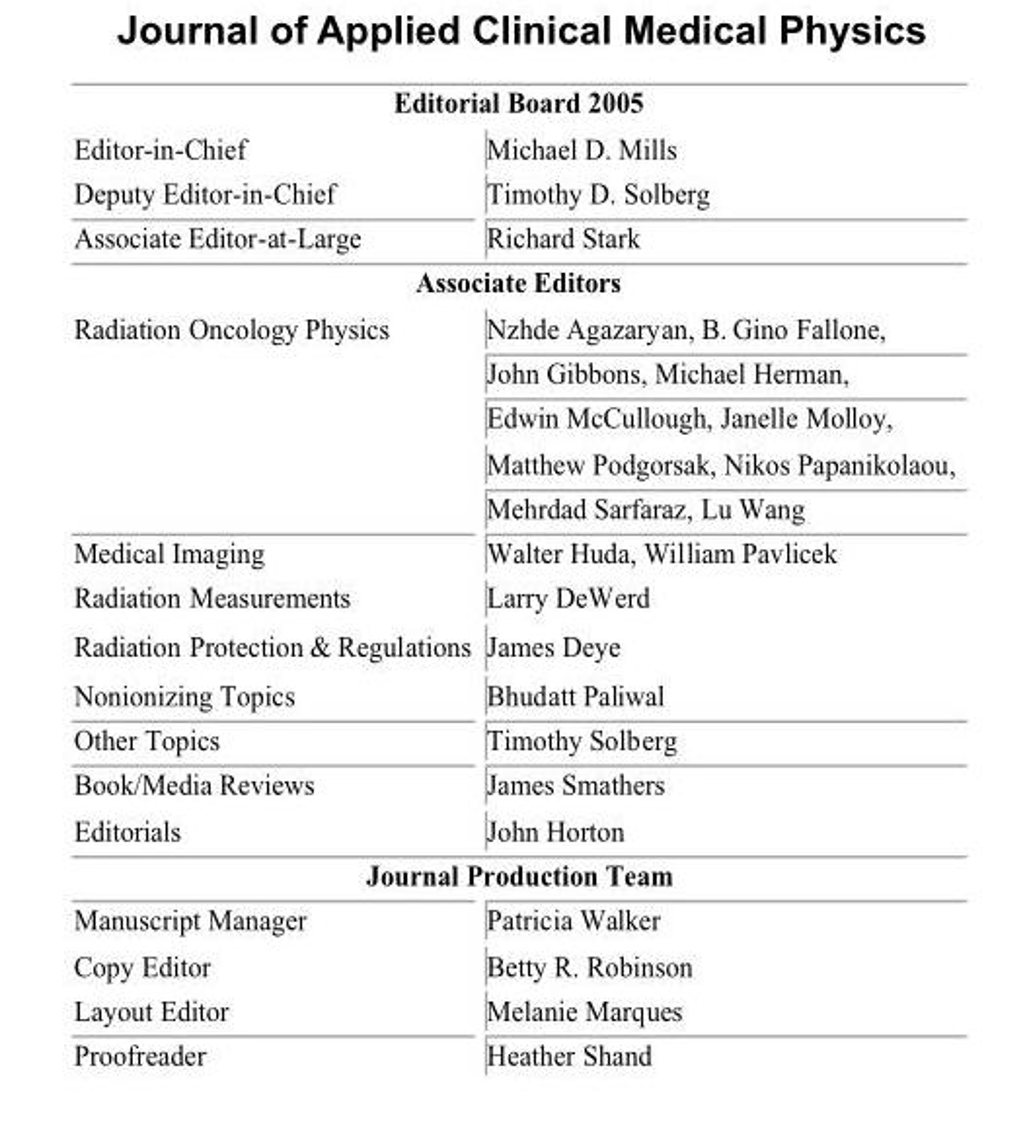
<table><tbody><tr><td colspan="2">Editorial Board 2005</td></tr><tr><td>Editor-in-Chief</td><td>Michael D. Mills</td></tr><tr><td>Deputy Editor-in-Chief</td><td>Timothy D. Solberg</td></tr><tr><td>Associate Editor-at-Large</td><td>Richard Stark</td></tr><tr><td colspan="2">Associate Editors</td></tr><tr><td rowspan="5">Radiation Oncology Physics</td><td>Nzhde Agazaryan, B. Gino Fallone,</td></tr><tr><td>John Gibbons, Michael Herman,</td></tr><tr><td>Edwin McCullough, Janelle Molloy,</td></tr><tr><td>Matthew Podgorsak, Nikos Papanikolaou,</td></tr><tr><td>Mehrdad Sarfaraz, Lu Wang</td></tr><tr><td>Medical Imaging</td><td>Walter Huda, William Pavlicek</td></tr><tr><td>Radiation Measurements</td><td>Larry DeWerd</td></tr><tr><td>Radiation Protection &amp; Regulations</td><td>James Deye</td></tr><tr><td>Nonionizing Topics</td><td>Bhudatt Paliwal</td></tr><tr><td>Other Topics</td><td>Timothy Solberg</td></tr><tr><td>Book/Media Reviews</td><td>James Smathers</td></tr><tr><td>Editorials</td><td>John Horton</td></tr><tr><td colspan="2">Journal Production Team</td></tr><tr><td>Manuscript Manager</td><td>Patricia Walker</td></tr><tr><td>Copy Editor</td><td>Betty R. Robinson</td></tr><tr><td>Layout Editor</td><td>Melanie Marques</td></tr><tr><td>Proofreader</td><td>Heather Shand</td></tr></tbody></table>